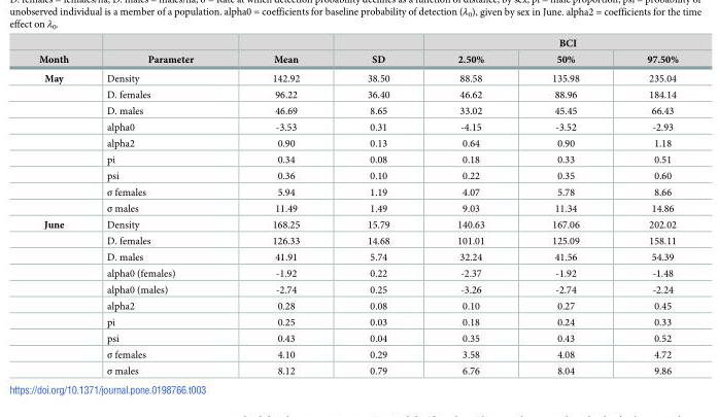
<table><thead><tr><td rowspan="2">Month</td><td rowspan="2">Parameter</td><td rowspan="2">Mean</td><td rowspan="2">SD</td><td colspan="3">BCI</td></tr><tr><td>2.50%</td><td>50%</td><td>97.50%</td></tr></thead><tbody><tr><td rowspan="9">May</td><td>Density</td><td>142.92</td><td>38.50</td><td>88.58</td><td>135.98</td><td>235.04</td></tr><tr><td>D. females</td><td>96.22</td><td>36.40</td><td>46.62</td><td>88.96</td><td>184.14</td></tr><tr><td>D. males</td><td>46.69</td><td>8.65</td><td>33.02</td><td>45.45</td><td>66.43</td></tr><tr><td>alpha0</td><td>-3.53</td><td>0.31</td><td>-4.15</td><td>-3.52</td><td>-2.93</td></tr><tr><td>alpha2</td><td>0.90</td><td>0.13</td><td>0.64</td><td>0.90</td><td>1.18</td></tr><tr><td>pi</td><td>0.34</td><td>0.08</td><td>0.18</td><td>0.33</td><td>0.51</td></tr><tr><td>psi</td><td>0.36</td><td>0.10</td><td>0.22</td><td>0.35</td><td>0.60</td></tr><tr><td>σ females</td><td>5.94</td><td>1.19</td><td>4.07</td><td>5.78</td><td>8.66</td></tr><tr><td>σ males</td><td>11.49</td><td>1.49</td><td>9.03</td><td>11.34</td><td>14.86</td></tr><tr><td rowspan="10">June</td><td>Density</td><td>168.25</td><td>15.79</td><td>140.63</td><td>167.06</td><td>202.02</td></tr><tr><td>D. females</td><td>126.33</td><td>14.68</td><td>101.01</td><td>125.09</td><td>158.11</td></tr><tr><td>D. males</td><td>41.91</td><td>5.74</td><td>32.24</td><td>41.56</td><td>54.39</td></tr><tr><td>alpha0 (females)</td><td>-1.92</td><td>0.22</td><td>-2.37</td><td>-1.92</td><td>-1.48</td></tr><tr><td>alpha0 (males)</td><td>-2.74</td><td>0.25</td><td>-3.26</td><td>-2.74</td><td>-2.24</td></tr><tr><td>alpha2</td><td>0.28</td><td>0.08</td><td>0.10</td><td>0.27</td><td>0.45</td></tr><tr><td>pi</td><td>0.25</td><td>0.03</td><td>0.18</td><td>0.24</td><td>0.33</td></tr><tr><td>psi</td><td>0.43</td><td>0.04</td><td>0.35</td><td>0.43</td><td>0.52</td></tr><tr><td>σ females</td><td>4.10</td><td>0.29</td><td>3.58</td><td>4.08</td><td>4.72</td></tr><tr><td>σ males</td><td>8.12</td><td>0.79</td><td>6.76</td><td>8.04</td><td>9.86</td></tr></tbody></table>